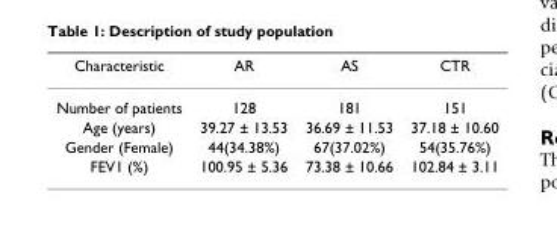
<table><thead><tr><td>Characteristic</td><td>AR</td><td>AS</td><td>CTR</td></tr></thead><tbody><tr><td>Number of patients</td><td>128</td><td>181</td><td>151</td></tr><tr><td>Age (years)</td><td>39.27 ± 13.53</td><td>36.69 ± 11.53</td><td>37.18 ± 10.60</td></tr><tr><td>Gender (Female)</td><td>44(34.38%)</td><td>67(37.02%)</td><td>54(35.76%)</td></tr><tr><td>FEV1 (%)</td><td>100.95 ± 5.36</td><td>73.38 ± 10.66</td><td>102.84 ± 3.11</td></tr></tbody></table>